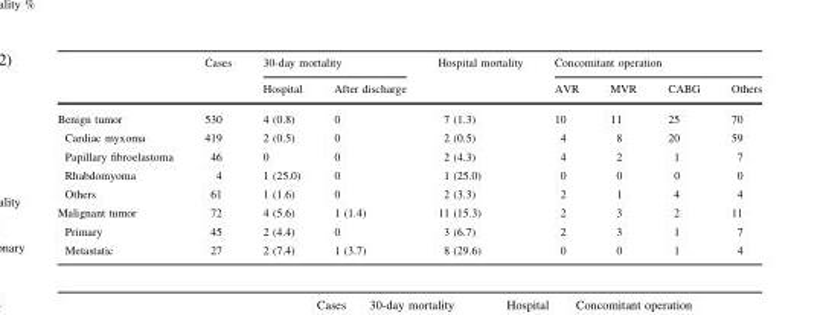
<table><thead><tr><td rowspan="2"></td><td rowspan="2">Cases</td><td colspan="2">30-day mortality</td><td rowspan="2">Hospital mortality</td><td colspan="4">Concomitant operation</td></tr><tr><td>Hospital</td><td>After discharge</td><td>AVR</td><td>MVR</td><td>CABG</td><td>Others</td></tr></thead><tbody><tr><td>Benign tumor</td><td>530</td><td>4 (0.8)</td><td>0</td><td>7 (1.3)</td><td>10</td><td>11</td><td>25</td><td>70</td></tr><tr><td>Cardiac myxoma</td><td>419</td><td>2 (0.5)</td><td>0</td><td>2 (0.5)</td><td>4</td><td>8</td><td>20</td><td>59</td></tr><tr><td>Papillary fibroelastoma</td><td>46</td><td>0</td><td>0</td><td>2 (4.3)</td><td>4</td><td>2</td><td>1</td><td>7</td></tr><tr><td>Rhabdomyoma</td><td>4</td><td>1 (25.0)</td><td>0</td><td>1 (25.0)</td><td>0</td><td>0</td><td>0</td><td>0</td></tr><tr><td>Others</td><td>61</td><td>1 (1.6)</td><td>0</td><td>2 (3.3)</td><td>2</td><td>1</td><td>4</td><td>4</td></tr><tr><td>Malignant tumor</td><td>72</td><td>4 (5.6)</td><td>1 (1.4)</td><td>11 (15.3)</td><td>2</td><td>3</td><td>2</td><td>11</td></tr><tr><td>Primary</td><td>45</td><td>2 (4.4)</td><td>0</td><td>3 (6.7)</td><td>2</td><td>3</td><td>1</td><td>7</td></tr><tr><td>Metastatic</td><td>27</td><td>2 (7.4)</td><td>1 (3.7)</td><td>8 (29.6)</td><td>0</td><td>0</td><td>1</td><td>4</td></tr></tbody></table>